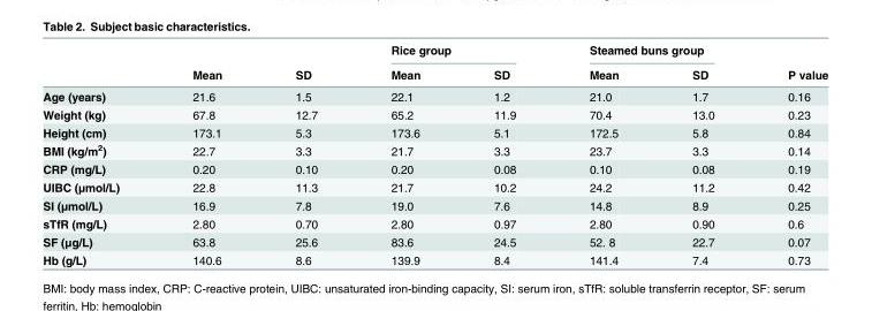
<table><thead><tr><td rowspan="2"></td><td rowspan="2">Mean</td><td rowspan="2">SD</td><td colspan="2">Rice group</td><td colspan="2">Steamed buns group</td><td rowspan="2">P value</td></tr><tr><td>Mean</td><td>SD</td><td>Mean</td><td>SD</td></tr></thead><tbody><tr><td>Age (years)</td><td>21.6</td><td>1.5</td><td>22.1</td><td>1.2</td><td>21.0</td><td>1.7</td><td>0.16</td></tr><tr><td>Weight (kg)</td><td>67.8</td><td>12.7</td><td>65.2</td><td>11.9</td><td>70.4</td><td>13.0</td><td>0.23</td></tr><tr><td>Height (cm)</td><td>173.1</td><td>5.3</td><td>173.6</td><td>5.1</td><td>172.5</td><td>5.8</td><td>0.84</td></tr><tr><td>BMI (kg/m<sup>2</sup>)</td><td>22.7</td><td>3.3</td><td>21.7</td><td>3.3</td><td>23.7</td><td>3.3</td><td>0.14</td></tr><tr><td>CRP (mg/L)</td><td>0.20</td><td>0.10</td><td>0.20</td><td>0.08</td><td>0.10</td><td>0.08</td><td>0.19</td></tr><tr><td>UIBC (μmol/L)</td><td>22.8</td><td>11.3</td><td>21.7</td><td>10.2</td><td>24.2</td><td>11.2</td><td>0.42</td></tr><tr><td>SI (μmol/L)</td><td>16.9</td><td>7.8</td><td>19.0</td><td>7.6</td><td>14.8</td><td>8.9</td><td>0.25</td></tr><tr><td>sTfR (mg/L)</td><td>2.80</td><td>0.70</td><td>2.80</td><td>0.97</td><td>2.80</td><td>0.90</td><td>0.6</td></tr><tr><td>SF (μg/L)</td><td>63.8</td><td>25.6</td><td>83.6</td><td>24.5</td><td>52. 8</td><td>22.7</td><td>0.07</td></tr><tr><td>Hb (g/L)</td><td>140.6</td><td>8.6</td><td>139.9</td><td>8.4</td><td>141.4</td><td>7.4</td><td>0.73</td></tr></tbody></table>